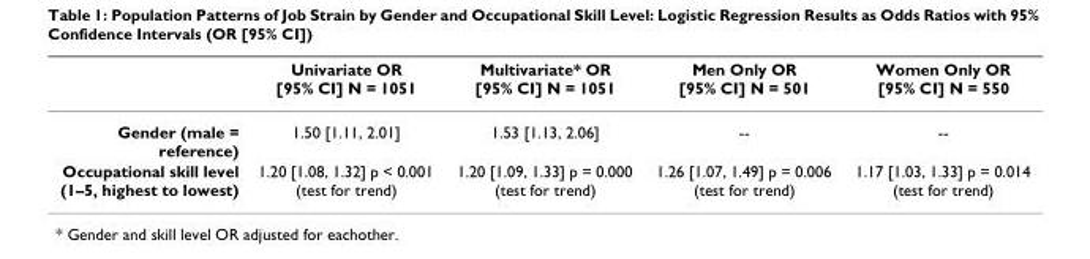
<table><thead><tr><td></td><td>Univariate OR [95% CI] N = 1051</td><td>Multivariate* OR [95% CI] N = 1051</td><td>Men Only OR [95% CI] N = 501</td><td>Women Only OR [95% CI] N = 550</td></tr></thead><tbody><tr><td>Gender (male = reference)</td><td>1.50 [1.11, 2.01]</td><td>1.53 [1.13, 2.06]</td><td>--</td><td>--</td></tr><tr><td>Occupational skill level (1–5, highest to lowest)</td><td>1.20 [1.08, 1.32] p &lt; 0.001 (test for trend)</td><td>1.20 [1.09, 1.33] p = 0.000 (test for trend)</td><td>1.26 [1.07, 1.49] p = 0.006 (test for trend)</td><td>1.17 [1.03, 1.33] p = 0.014 (test for trend)</td></tr></tbody></table>